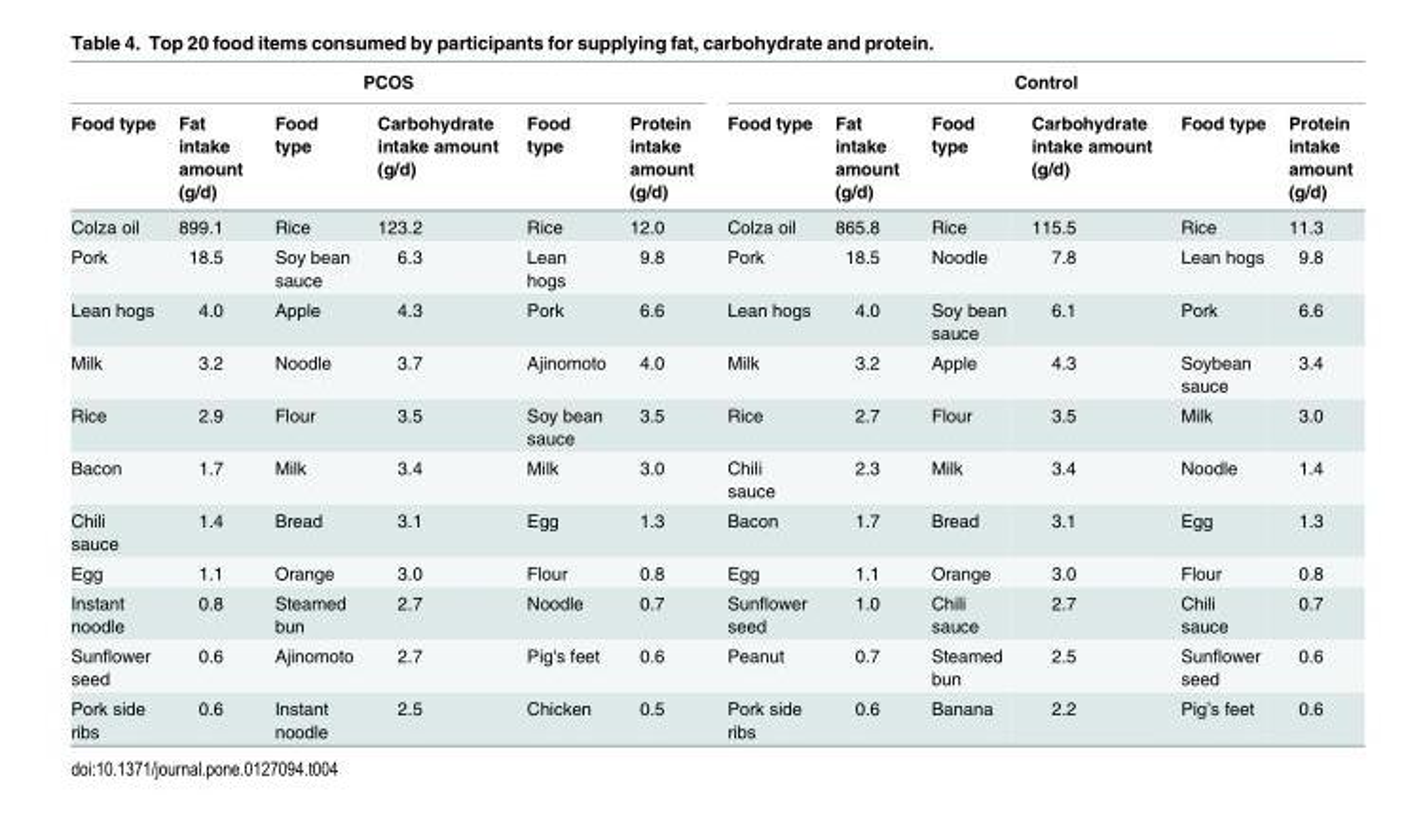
<table><thead><tr><td colspan="6">PCOS</td><td colspan="6">Control</td></tr><tr><td>Food type</td><td>Fat intake amount (g/d)</td><td>Food type</td><td>Carbohydrate intake amount (g/d)</td><td>Food type</td><td>Protein intake amount (g/d)</td><td>Food type</td><td>Fat intake amount (g/d)</td><td>Food type</td><td>Carbohydrate intake amount (g/d)</td><td>Food type</td><td>Protein intake amount (g/d)</td></tr></thead><tbody><tr><td>Colza oil</td><td>899.1</td><td>Rice</td><td>123.2</td><td>Rice</td><td>12.0</td><td>Colza oil</td><td>865.8</td><td>Rice</td><td>115.5</td><td>Rice</td><td>11.3</td></tr><tr><td>Pork</td><td>18.5</td><td>Soy bean sauce</td><td>6.3</td><td>Lean hogs</td><td>9.8</td><td>Pork</td><td>18.5</td><td>Noodle</td><td>7.8</td><td>Lean hogs</td><td>9.8</td></tr><tr><td>Lean hogs</td><td>4.0</td><td>Apple</td><td>4.3</td><td>Pork</td><td>6.6</td><td>Lean hogs</td><td>4.0</td><td>Soy bean sauce</td><td>6.1</td><td>Pork</td><td>6.6</td></tr><tr><td>Milk</td><td>3.2</td><td>Noodle</td><td>3.7</td><td>Ajinomoto</td><td>4.0</td><td>Milk</td><td>3.2</td><td>Apple</td><td>4.3</td><td>Soybean sauce</td><td>3.4</td></tr><tr><td>Rice</td><td>2.9</td><td>Flour</td><td>3.5</td><td>Soy bean sauce</td><td>3.5</td><td>Rice</td><td>2.7</td><td>Flour</td><td>3.5</td><td>Milk</td><td>3.0</td></tr><tr><td>Bacon</td><td>1.7</td><td>Milk</td><td>3.4</td><td>Milk</td><td>3.0</td><td>Chili sauce</td><td>2.3</td><td>Milk</td><td>3.4</td><td>Noodle</td><td>1.4</td></tr><tr><td>Chili sauce</td><td>1.4</td><td>Bread</td><td>3.1</td><td>Egg</td><td>1.3</td><td>Bacon</td><td>1.7</td><td>Bread</td><td>3.1</td><td>Egg</td><td>1.3</td></tr><tr><td>Egg</td><td>1.1</td><td>Orange</td><td>3.0</td><td>Flour</td><td>0.8</td><td>Egg</td><td>1.1</td><td>Orange</td><td>3.0</td><td>Flour</td><td>0.8</td></tr><tr><td>Instant noodle</td><td>0.8</td><td>Steamed bun</td><td>2.7</td><td>Noodle</td><td>0.7</td><td>Sunflower seed</td><td>1.0</td><td>Chili sauce</td><td>2.7</td><td>Chili sauce</td><td>0.7</td></tr><tr><td>Sunflower seed</td><td>0.6</td><td>Ajinomoto</td><td>2.7</td><td>Pig&#x27;s feet</td><td>0.6</td><td>Peanut</td><td>0.7</td><td>Steamed bun</td><td>2.5</td><td>Sunflower seed</td><td>0.6</td></tr><tr><td>Pork side ribs</td><td>0.6</td><td>Instant noodle</td><td>2.5</td><td>Chicken</td><td>0.5</td><td>Pork side ribs</td><td>0.6</td><td>Banana</td><td>2.2</td><td>Pig’s feet</td><td>0.6</td></tr></tbody></table>